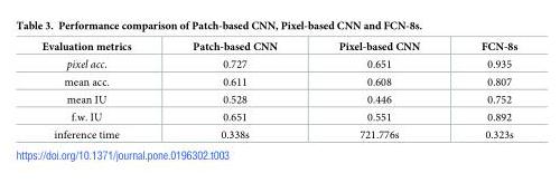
<table><thead><tr><td>Evaluation metrics</td><td>Patch-based CNN</td><td>Pixel-based CNN</td><td>FCN-8s</td></tr></thead><tbody><tr><td>pixel acc.</td><td>0.727</td><td>0.651</td><td>0.935</td></tr><tr><td>mean acc.</td><td>0.611</td><td>0.608</td><td>0.807</td></tr><tr><td>mean IU</td><td>0.528</td><td>0.446</td><td>0.752</td></tr><tr><td>f.w. IU</td><td>0.651</td><td>0.551</td><td>0.892</td></tr><tr><td>inference time</td><td>0.338s</td><td>721.776s</td><td>0.323s</td></tr></tbody></table>